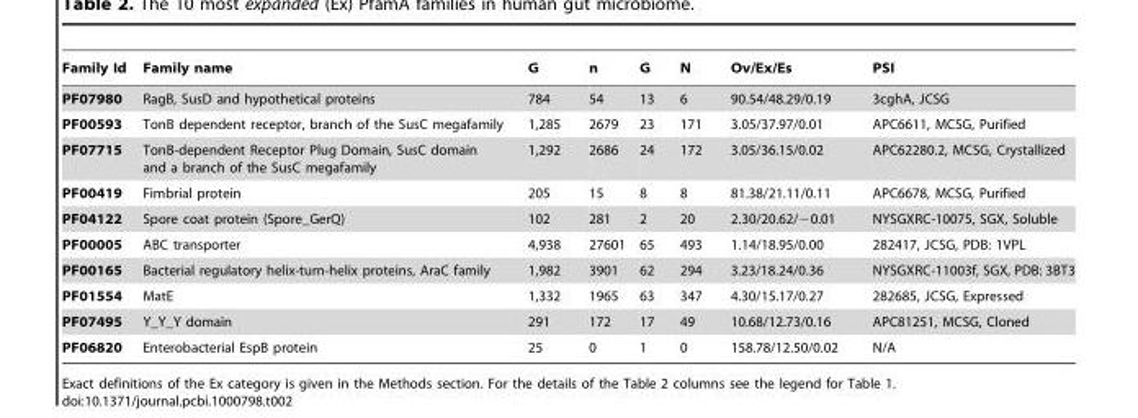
<table><thead><tr><td>Family Id</td><td>Family name</td><td>G</td><td>n</td><td>G</td><td>N</td><td>Ov/Ex/Es</td><td>PSI</td></tr></thead><tbody><tr><td>PF07980</td><td>RagB, SusD and hypothetical proteins</td><td>784</td><td>54</td><td>13</td><td>6</td><td>90.54/48.29/0.19</td><td>3cghA, JCSG</td></tr><tr><td>PF00593</td><td>TonB dependent receptor, branch of the SusC megafamily</td><td>1,285</td><td>2679</td><td>23</td><td>171</td><td>3.05/37.97/0.01</td><td>APC6611, MCSG, Purified</td></tr><tr><td>PF07715</td><td>TonB-dependent Receptor Plug Domain, SusC domain and a branch of the SusC megafamily</td><td>1,292</td><td>2686</td><td>24</td><td>172</td><td>3.05/36.15/0.02</td><td>APC62280.2, MCSG, Crystallized</td></tr><tr><td>PF00419</td><td>Fimbrial protein</td><td>205</td><td>15</td><td>8</td><td>8</td><td>81.38/21.11/0.11</td><td>APC6678, MCSG, Purified</td></tr><tr><td>PF04122</td><td>Spore coat protein (Spore_GerQ)</td><td>102</td><td>281</td><td>2</td><td>20</td><td>2.30/20.62/−0.01</td><td>NYSGXRC-10075, SGX, Soluble</td></tr><tr><td>PF00005</td><td>ABC transporter</td><td>4,938</td><td>27601</td><td>65</td><td>493</td><td>1.14/18.95/0.00</td><td>282417, JCSG, PDB: 1VPL</td></tr><tr><td>PF00165</td><td>Bacterial regulatory helix-turn-helix proteins, AraC family</td><td>1,982</td><td>3901</td><td>62</td><td>294</td><td>3.23/18.24/0.36</td><td>NYSGXRC-11003f, SGX, PDB: 3BT3</td></tr><tr><td>PF01554</td><td>MatE</td><td>1,332</td><td>1965</td><td>63</td><td>347</td><td>4.30/15.17/0.27</td><td>282685, JCSG, Expressed</td></tr><tr><td>PF07495</td><td>Y_Y_Y domain</td><td>291</td><td>172</td><td>17</td><td>49</td><td>10.68/12.73/0.16</td><td>APC81251, MCSG, Cloned</td></tr><tr><td>PF06820</td><td>Enterobacterial EspB protein</td><td>25</td><td>0</td><td>1</td><td>0</td><td>158.78/12.50/0.02</td><td>N/A</td></tr></tbody></table>